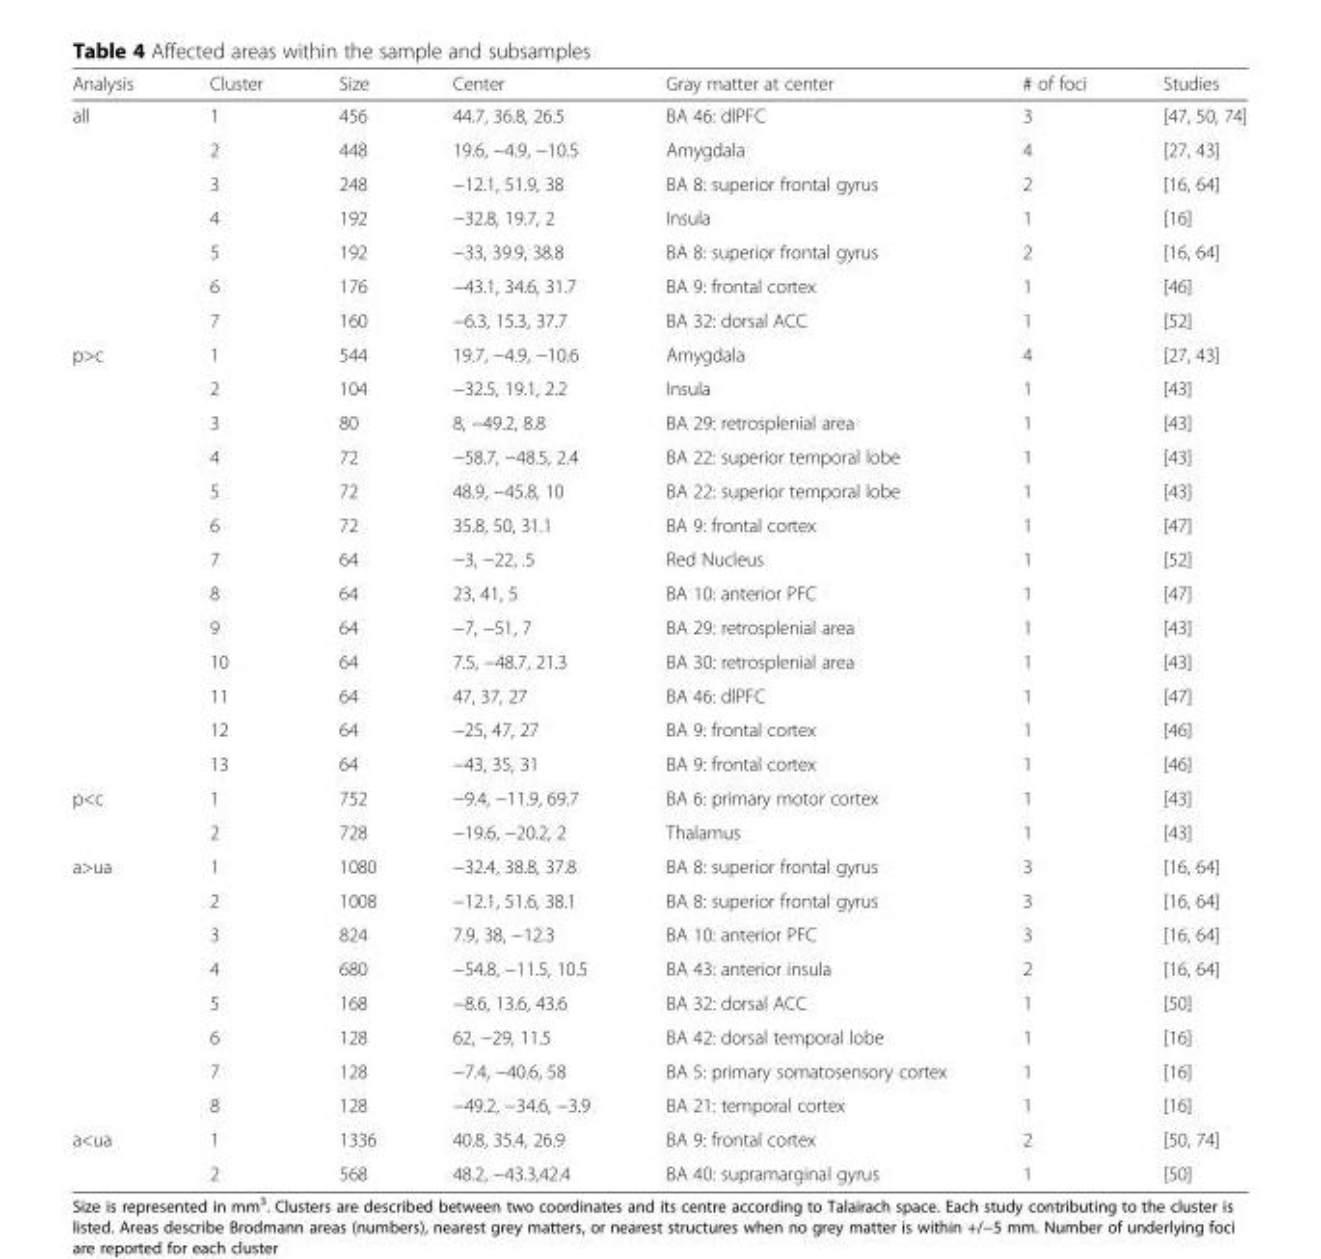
<table><thead><tr><td>Analysis</td><td>Cluster</td><td>Size</td><td>Center</td><td>Gray matter at center</td><td># of foci</td><td>Studies</td></tr></thead><tbody><tr><td rowspan="7">all</td><td>1</td><td>456</td><td>44.7, 36.8, 26.5</td><td>BA 46: dlPFC</td><td>3</td><td>[47, 50, 74]</td></tr><tr><td>2</td><td>448</td><td>19.6, −4.9, −10.5</td><td>Amygdala</td><td>4</td><td>[27, 43]</td></tr><tr><td>3</td><td>248</td><td>−12.1, 51.9, 38</td><td>BA 8: superior frontal gyrus</td><td>2</td><td>[16, 64]</td></tr><tr><td>4</td><td>192</td><td>−32.8, 19.7, 2</td><td>Insula</td><td>1</td><td>[16]</td></tr><tr><td>5</td><td>192</td><td>−33, 39.9, 38.8</td><td>BA 8: superior frontal gyrus</td><td>2</td><td>[16, 64]</td></tr><tr><td>6</td><td>176</td><td>−43.1, 34.6, 31.7</td><td>BA 9: frontal cortex</td><td>1</td><td>[46]</td></tr><tr><td>7</td><td>160</td><td>−6.3, 15.3, 37.7</td><td>BA 32: dorsal ACC</td><td>1</td><td>[52]</td></tr><tr><td rowspan="13">p&gt;c</td><td>1</td><td>544</td><td>19.7, −4.9, −10.6</td><td>Amygdala</td><td>4</td><td>[27, 43]</td></tr><tr><td>2</td><td>104</td><td>−32.5, 19.1, 2.2</td><td>Insula</td><td>1</td><td>[43]</td></tr><tr><td>3</td><td>80</td><td>8, −49.2, 8.8</td><td>BA 29: retrosplenial area</td><td>1</td><td>[43]</td></tr><tr><td>4</td><td>72</td><td>−58.7, −48.5, 2.4</td><td>BA 22: superior temporal lobe</td><td>1</td><td>[43]</td></tr><tr><td>5</td><td>72</td><td>48.9, −45.8, 10</td><td>BA 22: superior temporal lobe</td><td>1</td><td>[43]</td></tr><tr><td>6</td><td>72</td><td>35.8, 50, 31.1</td><td>BA 9: frontal cortex</td><td>1</td><td>[47]</td></tr><tr><td>7</td><td>64</td><td>−3, −22, .5</td><td>Red Nucleus</td><td>1</td><td>[52]</td></tr><tr><td>8</td><td>64</td><td>23, 41, 5</td><td>BA 10: anterior PFC</td><td>1</td><td>[47]</td></tr><tr><td>9</td><td>64</td><td>−7, −51, 7</td><td>BA 29: retrosplenial area</td><td>1</td><td>[43]</td></tr><tr><td>10</td><td>64</td><td>7.5, −48.7, 21.3</td><td>BA 30: retrosplenial area</td><td>1</td><td>[43]</td></tr><tr><td>11</td><td>64</td><td>47, 37, 27</td><td>BA 46: dlPFC</td><td>1</td><td>[47]</td></tr><tr><td>12</td><td>64</td><td>−25, 47, 27</td><td>BA 9: frontal cortex</td><td>1</td><td>[46]</td></tr><tr><td>13</td><td>64</td><td>−43, 35, 31</td><td>BA 9: frontal cortex</td><td>1</td><td>[46]</td></tr><tr><td rowspan="2">p&lt;c</td><td>1</td><td>752</td><td>−9.4, −11.9, 69.7</td><td>BA 6: primary motor cortex</td><td>1</td><td>[43]</td></tr><tr><td>2</td><td>728</td><td>−19.6, −20.2, 2</td><td>Thalamus</td><td>1</td><td>[43]</td></tr><tr><td rowspan="8">a&gt;ua</td><td>1</td><td>1080</td><td>−32.4, 38.8, 37.8</td><td>BA 8: superior frontal gyrus</td><td>3</td><td>[16, 64]</td></tr><tr><td>2</td><td>1008</td><td>−12.1, 51.6, 38.1</td><td>BA 8: superior frontal gyrus</td><td>3</td><td>[16, 64]</td></tr><tr><td>3</td><td>824</td><td>7.9, 38, −12.3</td><td>BA 10: anterior PFC</td><td>3</td><td>[16, 64]</td></tr><tr><td>4</td><td>680</td><td>−54.8, −11.5, 10.5</td><td>BA 43: anterior insula</td><td>2</td><td>[16, 64]</td></tr><tr><td>5</td><td>168</td><td>−8.6, 13.6, 43.6</td><td>BA 32: dorsal ACC</td><td>1</td><td>[50]</td></tr><tr><td>6</td><td>128</td><td>62, −29, 11.5</td><td>BA 42: dorsal temporal lobe</td><td>1</td><td>[16]</td></tr><tr><td>7</td><td>128</td><td>−7.4, −40.6, 58</td><td>BA 5: primary somatosensory cortex</td><td>1</td><td>[16]</td></tr><tr><td>8</td><td>128</td><td>−49.2, −34.6, −3.9</td><td>BA 21: temporal cortex</td><td>1</td><td>[16]</td></tr><tr><td rowspan="2">a&lt;ua</td><td>1</td><td>1336</td><td>40.8, 35.4, 26.9</td><td>BA 9: frontal cortex</td><td>2</td><td>[50, 74]</td></tr><tr><td>2</td><td>568</td><td>48.2, −43.3,42.4</td><td>BA 40: supramarginal gyrus</td><td>1</td><td>[50]</td></tr></tbody></table>